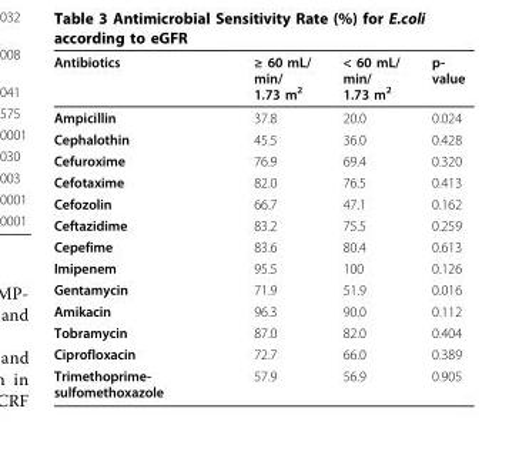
<table><thead><tr><td>Antibiotics</td><td>≥ 60 mL/ min/ 1.73 m<sup>2</sup></td><td>&lt; 60 mL/ min/ 1.73 m<sup>2</sup></td><td>p- value</td></tr></thead><tbody><tr><td>Ampicillin</td><td>37.8</td><td>20.0</td><td>0.024</td></tr><tr><td>Cephalothin</td><td>45.5</td><td>36.0</td><td>0.428</td></tr><tr><td>Cefuroxime</td><td>76.9</td><td>69.4</td><td>0.320</td></tr><tr><td>Cefotaxime</td><td>82.0</td><td>76.5</td><td>0.413</td></tr><tr><td>Cefozolin</td><td>66.7</td><td>47.1</td><td>0.162</td></tr><tr><td>Ceftazidime</td><td>83.2</td><td>75.5</td><td>0.259</td></tr><tr><td>Cepefime</td><td>83.6</td><td>80.4</td><td>0.613</td></tr><tr><td>Imipenem</td><td>95.5</td><td>100</td><td>0.126</td></tr><tr><td>Gentamycin</td><td>71.9</td><td>51.9</td><td>0.016</td></tr><tr><td>Amikacin</td><td>96.3</td><td>90.0</td><td>0.112</td></tr><tr><td>Tobramycin</td><td>87.0</td><td>82.0</td><td>0.404</td></tr><tr><td>Ciprofloxacin</td><td>72.7</td><td>66.0</td><td>0.389</td></tr><tr><td>Trimethoprime- sulfomethoxazole</td><td>57.9</td><td>56.9</td><td>0.905</td></tr></tbody></table>